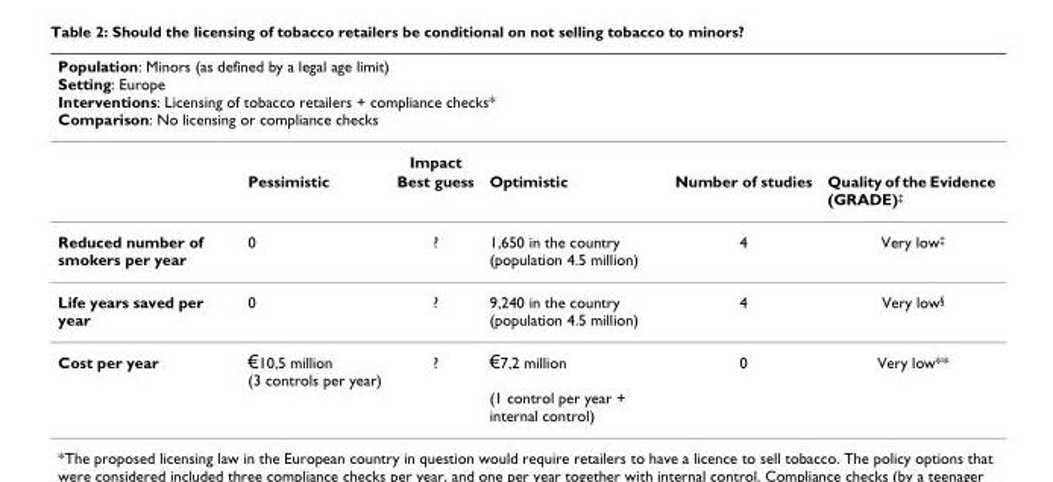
<table><thead><tr><td colspan="6">Population: Minors (as defined by a legal age limit) Setting: Europe Interventions: Licensing of tobacco retailers + compliance checks* Comparison: No licensing or compliance checks</td></tr><tr><td rowspan="2"></td><td rowspan="2">Pessimistic</td><td rowspan="2">Impact Best guess</td><td colspan="3"></td></tr><tr><td>Optimistic</td><td>Number of studies</td><td>Quality of the Evidence (GRADE)‡</td></tr></thead><tbody><tr><td>Reduced number of smokers per year</td><td>0</td><td>?</td><td>1,650 in the country (population 4.5 million)</td><td>4</td><td>Very low<sup>‡</sup></td></tr><tr><td>Life years saved per year</td><td>0</td><td>?</td><td>9,240 in the country (population 4.5 million)</td><td>4</td><td>Very low<sup>§</sup></td></tr><tr><td>Cost per year</td><td>€10,5 million (3 controls per year)</td><td>?</td><td>€7,2 million (1 control per year + internal control)</td><td>0</td><td>Very low**</td></tr></tbody></table>